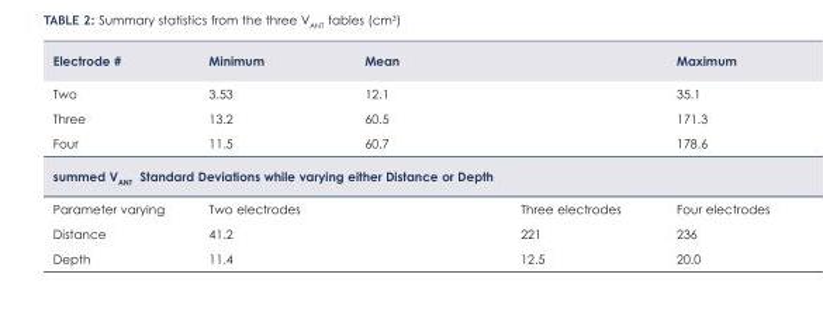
<table><thead><tr><td>Electrode #</td><td>Minimum</td><td>Mean</td><td>Maximum</td></tr></thead><tbody><tr><td>Two</td><td>3.53</td><td>12.1</td><td>35.1</td></tr><tr><td>Three</td><td>13.2</td><td>60.5</td><td>171.3</td></tr><tr><td>Four</td><td>11.5</td><td>60.7</td><td>178.6</td></tr><tr><td colspan="4">summed V<sub>ANT</sub> Standard Deviations while varying either Distance or Depth</td></tr><tr><td>Parameter varying</td><td>Two electrodes</td><td>Three electrodes</td><td>Four electrodes</td></tr><tr><td>Distance</td><td>41.2</td><td>221</td><td>236</td></tr><tr><td>Depth</td><td>11.4</td><td>12.5</td><td>20.0</td></tr></tbody></table>